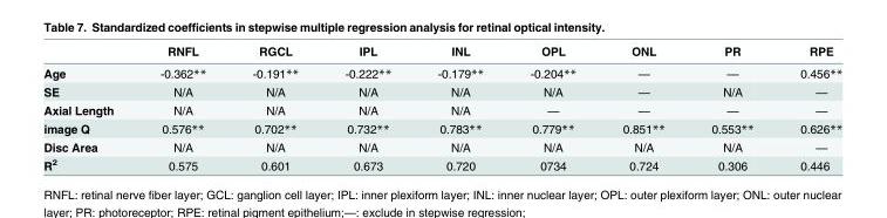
<table><thead><tr><td></td><td>RNFL</td><td>RGCL</td><td>IPL</td><td>INL</td><td>OPL</td><td>ONL</td><td>PR</td><td>RPE</td></tr></thead><tbody><tr><td>Age</td><td>-0.362**</td><td>-0.191**</td><td>-0.222**</td><td>-0.179**</td><td>-0.204**</td><td>—</td><td>—</td><td>0.456**</td></tr><tr><td>SE</td><td>N/A</td><td>N/A</td><td>N/A</td><td>N/A</td><td>N/A</td><td>—</td><td>N/A</td><td>—</td></tr><tr><td>Axial Length</td><td>N/A</td><td>N/A</td><td>N/A</td><td>N/A</td><td>—</td><td>—</td><td>—</td><td>—</td></tr><tr><td>image Q</td><td>0.576**</td><td>0.702**</td><td>0.732**</td><td>0.783**</td><td>0.779**</td><td>0.851**</td><td>0.553**</td><td>0.626**</td></tr><tr><td>Disc Area</td><td>N/A</td><td>N/A</td><td>N/A</td><td>N/A</td><td>N/A</td><td>N/A</td><td>N/A</td><td>—</td></tr><tr><td>R<sup>2</sup></td><td>0.575</td><td>0.601</td><td>0.673</td><td>0.720</td><td>0734</td><td>0.724</td><td>0.306</td><td>0.446</td></tr></tbody></table>